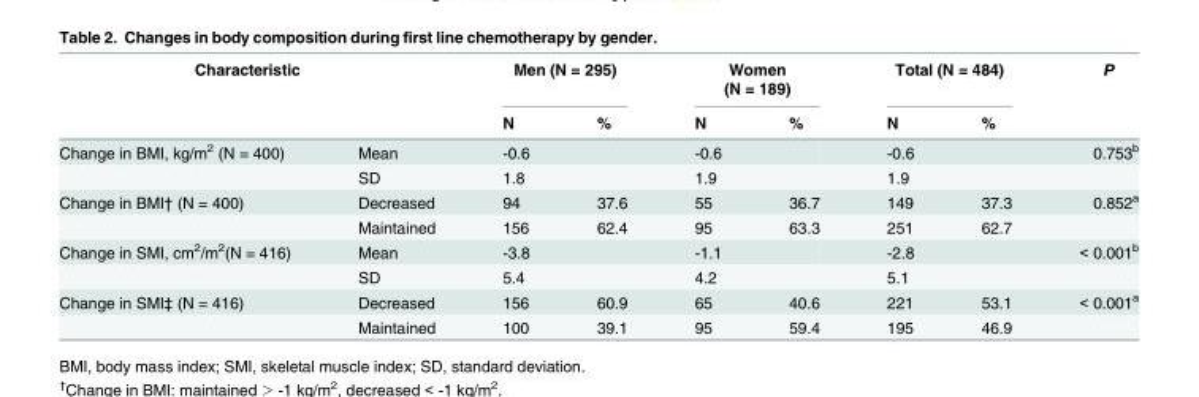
<table><thead><tr><td colspan="2">Characteristic</td><td colspan="2">Men (N = 295)</td><td colspan="2">Women (N = 189)</td><td colspan="2">Total (N = 484)</td><td rowspan="2">P</td></tr><tr><td></td><td></td><td>N</td><td>%</td><td>N</td><td>%</td><td>N</td><td>%</td></tr></thead><tbody><tr><td rowspan="2">Change in BMI, kg/m<sup>2</sup> (N = 400)</td><td>Mean</td><td>-0.6</td><td></td><td>-0.6</td><td></td><td>-0.6</td><td></td><td>0.753<sup>b</sup></td></tr><tr><td>SD</td><td>1.8</td><td></td><td>1.9</td><td></td><td>1.9</td><td></td><td></td></tr><tr><td rowspan="2">Change in BMI† (N = 400)</td><td>Decreased</td><td>94</td><td>37.6</td><td>55</td><td>36.7</td><td>149</td><td>37.3</td><td>0.852<sup>a</sup></td></tr><tr><td>Maintained</td><td>156</td><td>62.4</td><td>95</td><td>63.3</td><td>251</td><td>62.7</td><td></td></tr><tr><td rowspan="2">Change in SMI, cm<sup>2</sup>/m<sup>2</sup>(N = 416)</td><td>Mean</td><td>-3.8</td><td></td><td>-1.1</td><td></td><td>-2.8</td><td></td><td>&lt; 0.001<sup>b</sup></td></tr><tr><td>SD</td><td>5.4</td><td></td><td>4.2</td><td></td><td>5.1</td><td></td><td></td></tr><tr><td rowspan="2">Change in SMI‡ (N = 416)</td><td>Decreased</td><td>156</td><td>60.9</td><td>65</td><td>40.6</td><td>221</td><td>53.1</td><td>&lt; 0.001<sup>a</sup></td></tr><tr><td>Maintained</td><td>100</td><td>39.1</td><td>95</td><td>59.4</td><td>195</td><td>46.9</td><td></td></tr></tbody></table>